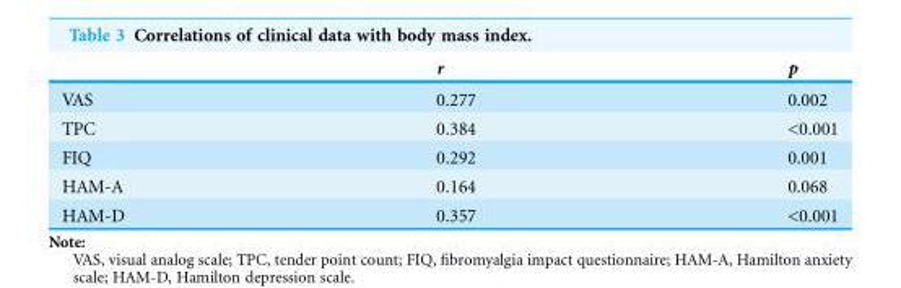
<table><thead><tr><td></td><td>r</td><td>p</td></tr></thead><tbody><tr><td>VAS</td><td>0.277</td><td>0.002</td></tr><tr><td>TPC</td><td>0.384</td><td>&lt;0.001</td></tr><tr><td>FIQ</td><td>0.292</td><td>0.001</td></tr><tr><td>HAM-A</td><td>0.164</td><td>0.068</td></tr><tr><td>HAM-D</td><td>0.357</td><td>&lt;0.001</td></tr></tbody></table>